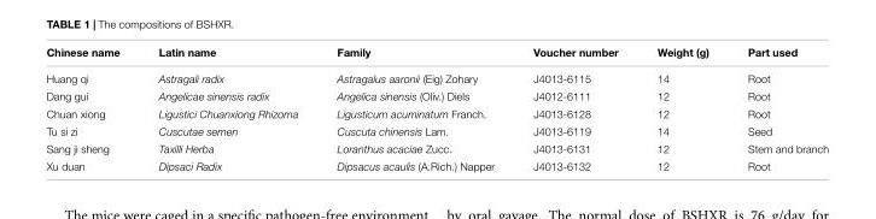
<table><thead><tr><td>Chinese name</td><td>Latin name</td><td>Family</td><td>Voucher number</td><td>Weight (g)</td><td>Part used</td></tr></thead><tbody><tr><td>Huang qi</td><td>Astragali radix</td><td>Astragalus aaronii (Eig) Zohary</td><td>J4013-6115</td><td>14</td><td>Root</td></tr><tr><td>Dang gui</td><td>Angelicae sinensis radix</td><td>Angelica sinensis (Oliv.) Diels</td><td>J4012-6111</td><td>12</td><td>Root</td></tr><tr><td>Chuan xiong</td><td>Ligustici Chuanxiong Rhizoma</td><td>Ligusticum acuminatum Franch.</td><td>J4013-6128</td><td>12</td><td>Root</td></tr><tr><td>Tu si zi</td><td>Cuscutae semen</td><td>Cuscuta chinensis Lam.</td><td>J4013-6119</td><td>14</td><td>Seed</td></tr><tr><td>Sang ji sheng</td><td>Taxilli Herba</td><td>Loranthus acaciae Zucc.</td><td>J4013-6131</td><td>12</td><td>Stem and branch</td></tr><tr><td>Xu duan</td><td>Dipsaci Radix</td><td>Dipsacus acaulis (A.Rich.) Napper</td><td>J4013-6132</td><td>12</td><td>Root</td></tr></tbody></table>